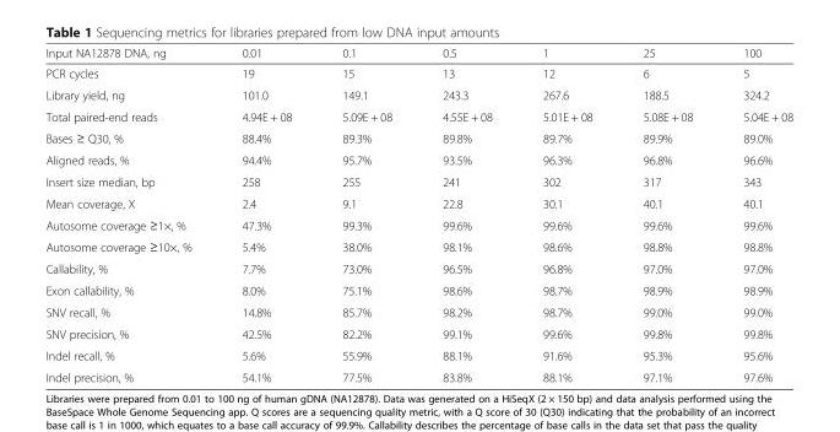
<table><thead><tr><td>Input NA12878 DNA, ng</td><td>0.01</td><td>0.1</td><td>0.5</td><td>1</td><td>25</td><td>100</td></tr></thead><tbody><tr><td>PCR cycles</td><td>19</td><td>15</td><td>13</td><td>12</td><td>6</td><td>5</td></tr><tr><td>Library yield, ng</td><td>101.0</td><td>149.1</td><td>243.3</td><td>267.6</td><td>188.5</td><td>324.2</td></tr><tr><td>Total paired-end reads</td><td>4.94E + 08</td><td>5.09E + 08</td><td>4.55E + 08</td><td>5.01E + 08</td><td>5.08E + 08</td><td>5.04E + 08</td></tr><tr><td>Bases ≥ Q30, %</td><td>88.4%</td><td>89.3%</td><td>89.8%</td><td>89.7%</td><td>89.9%</td><td>89.0%</td></tr><tr><td>Aligned reads, %</td><td>94.4%</td><td>95.7%</td><td>93.5%</td><td>96.3%</td><td>96.8%</td><td>96.6%</td></tr><tr><td>Insert size median, bp</td><td>258</td><td>255</td><td>241</td><td>302</td><td>317</td><td>343</td></tr><tr><td>Mean coverage, X</td><td>2.4</td><td>9.1</td><td>22.8</td><td>30.1</td><td>40.1</td><td>40.1</td></tr><tr><td>Autosome coverage ≥1×, %</td><td>47.3%</td><td>99.3%</td><td>99.6%</td><td>99.6%</td><td>99.6%</td><td>99.6%</td></tr><tr><td>Autosome coverage ≥10×, %</td><td>5.4%</td><td>38.0%</td><td>98.1%</td><td>98.6%</td><td>98.8%</td><td>98.8%</td></tr><tr><td>Callability, %</td><td>7.7%</td><td>73.0%</td><td>96.5%</td><td>96.8%</td><td>97.0%</td><td>97.0%</td></tr><tr><td>Exon callability, %</td><td>8.0%</td><td>75.1%</td><td>98.6%</td><td>98.7%</td><td>98.9%</td><td>98.9%</td></tr><tr><td>SNV recall, %</td><td>14.8%</td><td>85.7%</td><td>98.2%</td><td>98.7%</td><td>99.0%</td><td>99.0%</td></tr><tr><td>SNV precision, %</td><td>42.5%</td><td>82.2%</td><td>99.1%</td><td>99.6%</td><td>99.8%</td><td>99.8%</td></tr><tr><td>Indel recall, %</td><td>5.6%</td><td>55.9%</td><td>88.1%</td><td>91.6%</td><td>95.3%</td><td>95.6%</td></tr><tr><td>Indel precision, %</td><td>54.1%</td><td>77.5%</td><td>83.8%</td><td>88.1%</td><td>97.1%</td><td>97.6%</td></tr></tbody></table>